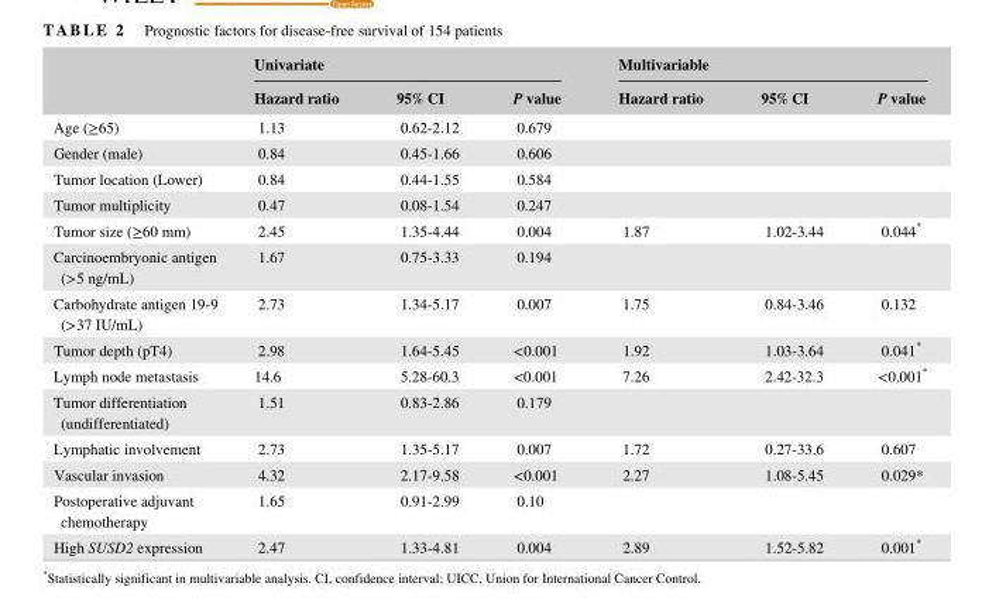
<table><thead><tr><td rowspan="2"></td><td colspan="3">Univariate</td><td colspan="3">Multivariable</td></tr><tr><td>Hazard ratio</td><td>95% CI</td><td>P value</td><td>Hazard ratio</td><td>95% CI</td><td>P value</td></tr></thead><tbody><tr><td>Age (≥65)</td><td>1.13</td><td>0.62‐2.12</td><td>0.679</td><td></td><td></td><td></td></tr><tr><td>Gender (male)</td><td>0.84</td><td>0.45‐1.66</td><td>0.606</td><td></td><td></td><td></td></tr><tr><td>Tumor location (Lower)</td><td>0.84</td><td>0.44‐1.55</td><td>0.584</td><td></td><td></td><td></td></tr><tr><td>Tumor multiplicity</td><td>0.47</td><td>0.08‐1.54</td><td>0.247</td><td></td><td></td><td></td></tr><tr><td>Tumor size (≥60 mm)</td><td>2.45</td><td>1.35‐4.44</td><td>0.004</td><td>1.87</td><td>1.02‐3.44</td><td>0.044*</td></tr><tr><td>Carcinoembryonic antigen (&gt;5 ng/mL)</td><td>1.67</td><td>0.75‐3.33</td><td>0.194</td><td></td><td></td><td></td></tr><tr><td>Carbohydrate antigen 19‐9 (&gt;37 IU/mL)</td><td>2.73</td><td>1.34‐5.17</td><td>0.007</td><td>1.75</td><td>0.84‐3.46</td><td>0.132</td></tr><tr><td>Tumor depth (pT4)</td><td>2.98</td><td>1.64‐5.45</td><td>&lt;0.001</td><td>1.92</td><td>1.03‐3.64</td><td>0.041*</td></tr><tr><td>Lymph node metastasis</td><td>14.6</td><td>5.28‐60.3</td><td>&lt;0.001</td><td>7.26</td><td>2.42‐32.3</td><td>&lt;0.001*</td></tr><tr><td>Tumor differentiation (undifferentiated)</td><td>1.51</td><td>0.83‐2.86</td><td>0.179</td><td></td><td></td><td></td></tr><tr><td>Lymphatic involvement</td><td>2.73</td><td>1.35‐5.17</td><td>0.007</td><td>1.72</td><td>0.27‐33.6</td><td>0.607</td></tr><tr><td>Vascular invasion</td><td>4.32</td><td>2.17‐9.58</td><td>&lt;0.001</td><td>2.27</td><td>1.08‐5.45</td><td>0.029*</td></tr><tr><td>Postoperative adjuvant chemotherapy</td><td>1.65</td><td>0.91‐2.99</td><td>0.10</td><td></td><td></td><td></td></tr><tr><td>High SUSD2 expression</td><td>2.47</td><td>1.33‐4.81</td><td>0.004</td><td>2.89</td><td>1.52‐5.82</td><td>0.001*</td></tr></tbody></table>